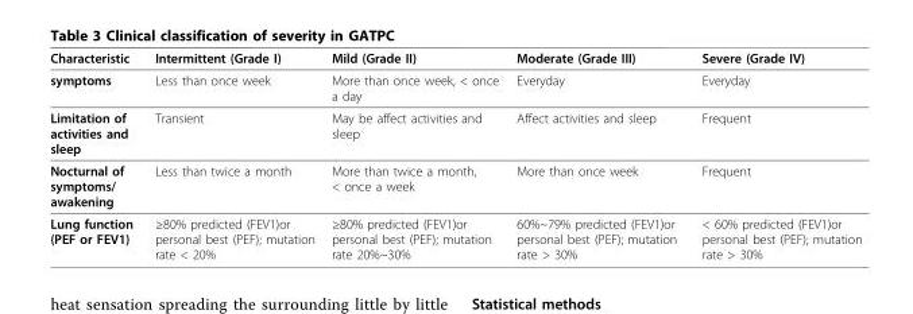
<table><thead><tr><td>Characteristic</td><td>Intermittent (Grade I)</td><td>Mild (Grade II)</td><td>Moderate (Grade III)</td><td>Severe (Grade IV)</td></tr></thead><tbody><tr><td>symptoms</td><td>Less than once week</td><td>More than once week, &lt; once a day</td><td>Everyday</td><td>Everyday</td></tr><tr><td>Limitation of activities and sleep</td><td>Transient</td><td>May be affect activities and sleep</td><td>Affect activities and sleep</td><td>Frequent</td></tr><tr><td>Nocturnal of symptoms/ awakening</td><td>Less than twice a month</td><td>More than twice a month, &lt; once a week</td><td>More than once week</td><td>Frequent</td></tr><tr><td>Lung function (PEF or FEV1)</td><td>≥80% predicted (FEV1)or personal best (PEF); mutation rate &lt; 20%</td><td>≥80% predicted (FEV1)or personal best (PEF); mutation rate 20%~30%</td><td>60%~79% predicted (FEV1)or personal best (PEF); mutation rate &gt; 30%</td><td>&lt; 60% predicted (FEV1)or personal best (PEF); mutation rate &gt; 30%</td></tr></tbody></table>